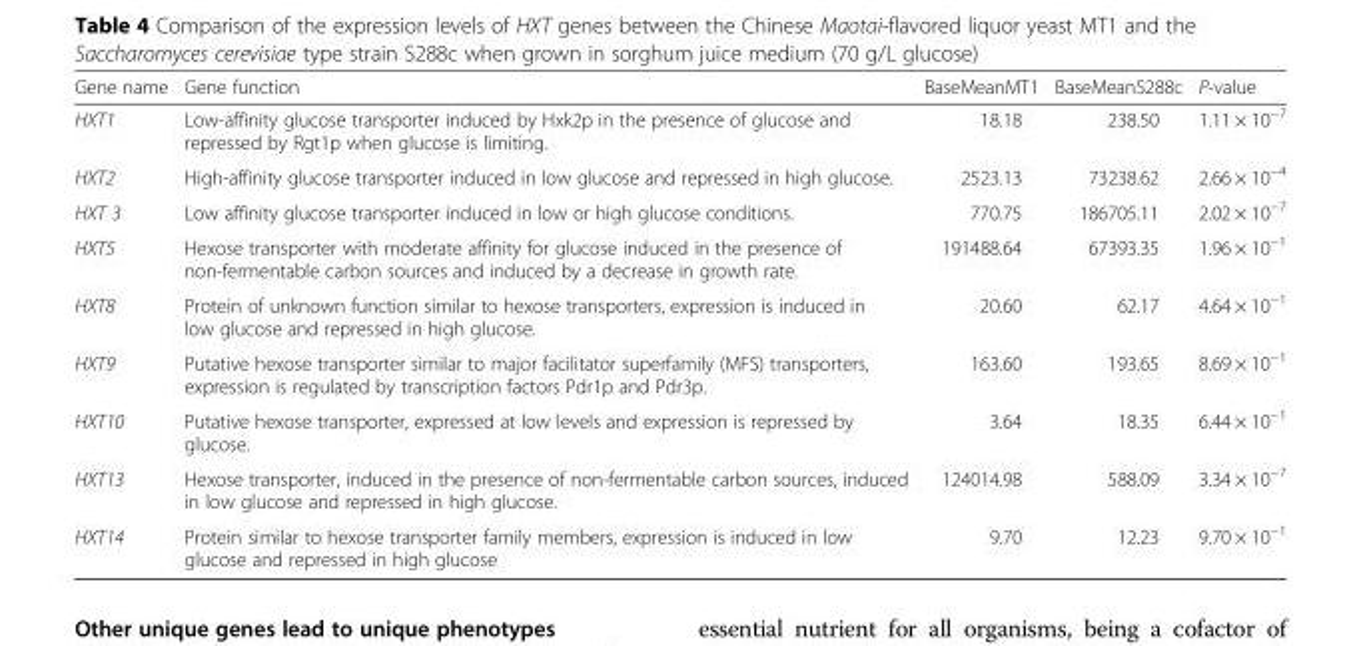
<table><thead><tr><td>Gene name</td><td>Gene function</td><td>BaseMeanMT1</td><td>BaseMeanS288c</td><td>P-value</td></tr></thead><tbody><tr><td>HXT1</td><td>Low-affinity glucose transporter induced by Hxk2p in the presence of glucose and repressed by Rgt1p when glucose is limiting.</td><td>18.18</td><td>238.50</td><td>1.11 × 10<sup>−7</sup></td></tr><tr><td>HXT2</td><td>High-affinity glucose transporter induced in low glucose and repressed in high glucose.</td><td>2523.13</td><td>73238.62</td><td>2.66 × 10<sup>−4</sup></td></tr><tr><td>HXT 3</td><td>Low affinity glucose transporter induced in low or high glucose conditions.</td><td>770.75</td><td>186705.11</td><td>2.02 × 10<sup>−7</sup></td></tr><tr><td>HXT5</td><td>Hexose transporter with moderate affinity for glucose induced in the presence of non-fermentable carbon sources and induced by a decrease in growth rate.</td><td>191488.64</td><td>67393.35</td><td>1.96 × 10<sup>−1</sup></td></tr><tr><td>HXT8</td><td>Protein of unknown function similar to hexose transporters, expression is induced in low glucose and repressed in high glucose.</td><td>20.60</td><td>62.17</td><td>4.64 × 10<sup>−1</sup></td></tr><tr><td>HXT9</td><td>Putative hexose transporter similar to major facilitator superfamily (MFS) transporters, expression is regulated by transcription factors Pdr1p and Pdr3p.</td><td>163.60</td><td>193.65</td><td>8.69 × 10<sup>−1</sup></td></tr><tr><td>HXT10</td><td>Putative hexose transporter, expressed at low levels and expression is repressed by glucose.</td><td>3.64</td><td>18.35</td><td>6.44 × 10<sup>−1</sup></td></tr><tr><td>HXT13</td><td>Hexose transporter, induced in the presence of non-fermentable carbon sources, induced in low glucose and repressed in high glucose.</td><td>124014.98</td><td>588.09</td><td>3.34 × 10<sup>−7</sup></td></tr><tr><td>HXT14</td><td>Protein similar to hexose transporter family members, expression is induced in low glucose and repressed in high glucose</td><td>9.70</td><td>12.23</td><td>9.70 × 10<sup>−1</sup></td></tr></tbody></table>